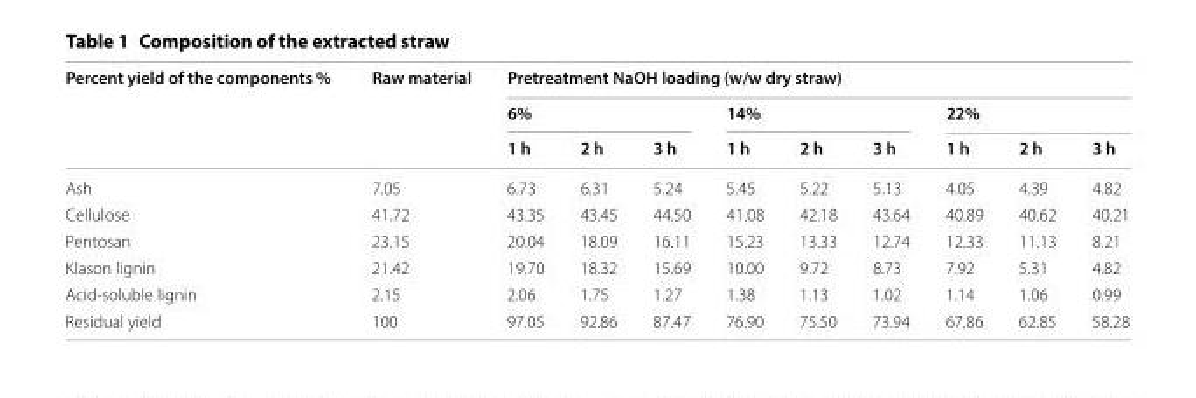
<table><thead><tr><td rowspan="3">Percent yield of the components %</td><td rowspan="3">Raw material</td><td colspan="9">Pretreatment NaOH loading (w/w dry straw)</td></tr><tr><td colspan="3">6%</td><td colspan="3">14%</td><td colspan="3">22%</td></tr><tr><td>1 h</td><td>2 h</td><td>3 h</td><td>1 h</td><td>2 h</td><td>3 h</td><td>1 h</td><td>2 h</td><td>3 h</td></tr></thead><tbody><tr><td>Ash</td><td>7.05</td><td>6.73</td><td>6.31</td><td>5.24</td><td>5.45</td><td>5.22</td><td>5.13</td><td>4.05</td><td>4.39</td><td>4.82</td></tr><tr><td>Cellulose</td><td>41.72</td><td>43.35</td><td>43.45</td><td>44.50</td><td>41.08</td><td>42.18</td><td>43.64</td><td>40.89</td><td>40.62</td><td>40.21</td></tr><tr><td>Pentosan</td><td>23.15</td><td>20.04</td><td>18.09</td><td>16.11</td><td>15.23</td><td>13.33</td><td>12.74</td><td>12.33</td><td>11.13</td><td>8.21</td></tr><tr><td>Klason lignin</td><td>21.42</td><td>19.70</td><td>18.32</td><td>15.69</td><td>10.00</td><td>9.72</td><td>8.73</td><td>7.92</td><td>5.31</td><td>4.82</td></tr><tr><td>Acid-soluble lignin</td><td>2.15</td><td>2.06</td><td>1.75</td><td>1.27</td><td>1.38</td><td>1.13</td><td>1.02</td><td>1.14</td><td>1.06</td><td>0.99</td></tr><tr><td>Residual yield</td><td>100</td><td>97.05</td><td>92.86</td><td>87.47</td><td>76.90</td><td>75.50</td><td>73.94</td><td>67.86</td><td>62.85</td><td>58.28</td></tr></tbody></table>